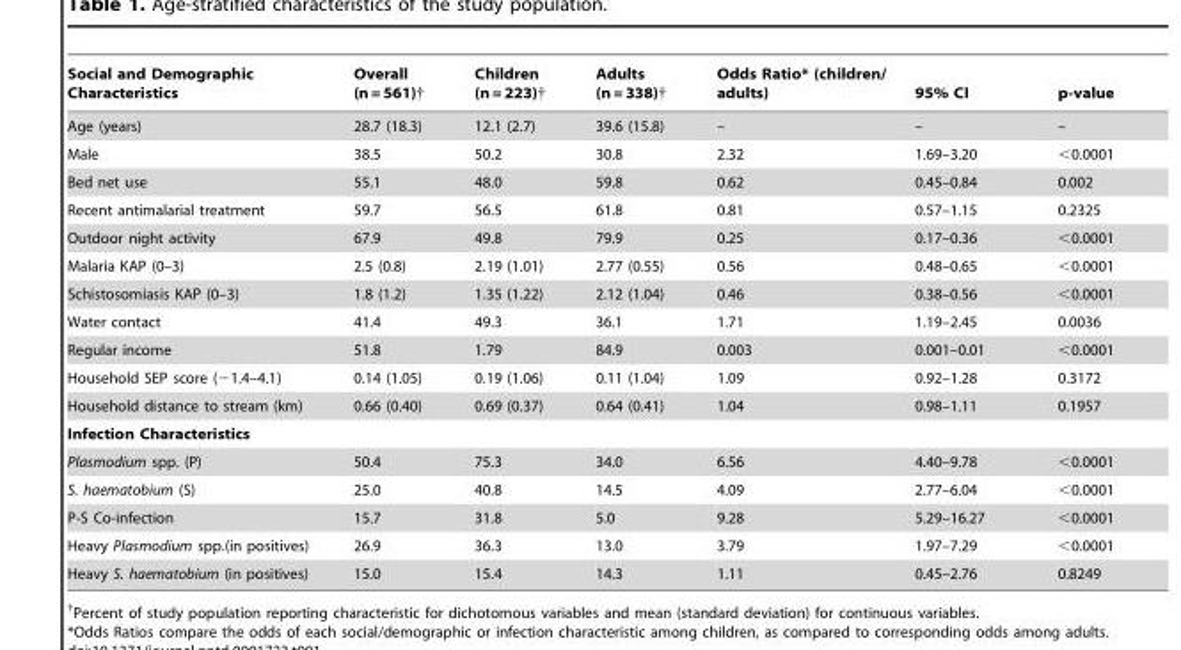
<table><thead><tr><td>Social and Demographic Characteristics</td><td>Overall (n = 561)†</td><td>Children (n = 223)†</td><td>Adults (n = 338)†</td><td>Odds Ratio* (children/ adults)</td><td>95% CI</td><td>p-value</td></tr></thead><tbody><tr><td>Age (years)</td><td>28.7 (18.3)</td><td>12.1 (2.7)</td><td>39.6 (15.8)</td><td>–</td><td>–</td><td>–</td></tr><tr><td>Male</td><td>38.5</td><td>50.2</td><td>30.8</td><td>2.32</td><td>1.69–3.20</td><td>&lt;0.0001</td></tr><tr><td>Bed net use</td><td>55.1</td><td>48.0</td><td>59.8</td><td>0.62</td><td>0.45–0.84</td><td>0.002</td></tr><tr><td>Recent antimalarial treatment</td><td>59.7</td><td>56.5</td><td>61.8</td><td>0.81</td><td>0.57–1.15</td><td>0.2325</td></tr><tr><td>Outdoor night activity</td><td>67.9</td><td>49.8</td><td>79.9</td><td>0.25</td><td>0.17–0.36</td><td>&lt;0.0001</td></tr><tr><td>Malaria KAP (0–3)</td><td>2.5 (0.8)</td><td>2.19 (1.01)</td><td>2.77 (0.55)</td><td>0.56</td><td>0.48–0.65</td><td>&lt;0.0001</td></tr><tr><td>Schistosomiasis KAP (0–3)</td><td>1.8 (1.2)</td><td>1.35 (1.22)</td><td>2.12 (1.04)</td><td>0.46</td><td>0.38–0.56</td><td>&lt;0.0001</td></tr><tr><td>Water contact</td><td>41.4</td><td>49.3</td><td>36.1</td><td>1.71</td><td>1.19–2.45</td><td>0.0036</td></tr><tr><td>Regular income</td><td>51.8</td><td>1.79</td><td>84.9</td><td>0.003</td><td>0.001–0.01</td><td>&lt;0.0001</td></tr><tr><td>Household SEP score (−1.4–4.1)</td><td>0.14 (1.05)</td><td>0.19 (1.06)</td><td>0.11 (1.04)</td><td>1.09</td><td>0.92–1.28</td><td>0.3172</td></tr><tr><td>Household distance to stream (km)</td><td>0.66 (0.40)</td><td>0.69 (0.37)</td><td>0.64 (0.41)</td><td>1.04</td><td>0.98–1.11</td><td>0.1957</td></tr><tr><td colspan="7">Infection Characteristics</td></tr><tr><td>Plasmodium spp. (P)</td><td>50.4</td><td>75.3</td><td>34.0</td><td>6.56</td><td>4.40–9.78</td><td>&lt;0.0001</td></tr><tr><td>S. haematobium (S)</td><td>25.0</td><td>40.8</td><td>14.5</td><td>4.09</td><td>2.77–6.04</td><td>&lt;0.0001</td></tr><tr><td>P-S Co-infection</td><td>15.7</td><td>31.8</td><td>5.0</td><td>9.28</td><td>5.29–16.27</td><td>&lt;0.0001</td></tr><tr><td>Heavy Plasmodium spp.(in positives)</td><td>26.9</td><td>36.3</td><td>13.0</td><td>3.79</td><td>1.97–7.29</td><td>&lt;0.0001</td></tr><tr><td>Heavy S. haematobium (in positives)</td><td>15.0</td><td>15.4</td><td>14.3</td><td>1.11</td><td>0.45–2.76</td><td>0.8249</td></tr></tbody></table>